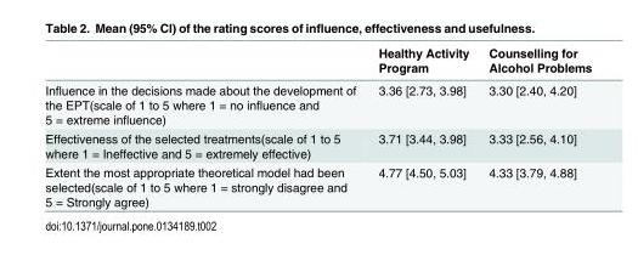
<table><thead><tr><td></td><td>Healthy Activity Program</td><td>Counselling for Alcohol Problems</td></tr></thead><tbody><tr><td>Influence in the decisions made about the development of the EPT(scale of 1 to 5 where 1 = no influence and 5 = extreme influence)</td><td>3.36 [2.73, 3.98]</td><td>3.30 [2.40, 4.20]</td></tr><tr><td>Effectiveness of the selected treatments(scale of 1 to 5 where 1 = Ineffective and 5 = extremely effective)</td><td>3.71 [3.44, 3.98]</td><td>3.33 [2.56, 4.10]</td></tr><tr><td>Extent the most appropriate theoretical model had been selected(scale of 1 to 5 where 1 = strongly disagree and 5 = Strongly agree)</td><td>4.77 [4.50, 5.03]</td><td>4.33 [3.79, 4.88]</td></tr></tbody></table>